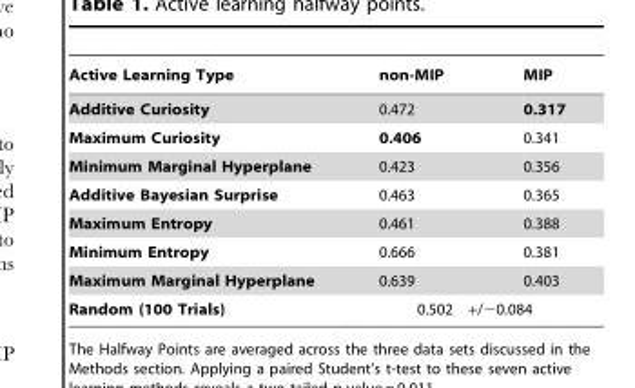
<table><thead><tr><td>Active Learning Type</td><td>non-MIP</td><td>MIP</td></tr></thead><tbody><tr><td>Additive Curiosity</td><td>0.472</td><td>0.317</td></tr><tr><td>Maximum Curiosity</td><td>0.406</td><td>0.341</td></tr><tr><td>Minimum Marginal Hyperplane</td><td>0.423</td><td>0.356</td></tr><tr><td>Additive Bayesian Surprise</td><td>0.463</td><td>0.365</td></tr><tr><td>Maximum Entropy</td><td>0.461</td><td>0.388</td></tr><tr><td>Minimum Entropy</td><td>0.666</td><td>0.381</td></tr><tr><td>Maximum Marginal Hyperplane</td><td>0.639</td><td>0.403</td></tr><tr><td>Random (100 Trials)</td><td>0.502</td><td>+/−0.084</td></tr></tbody></table>